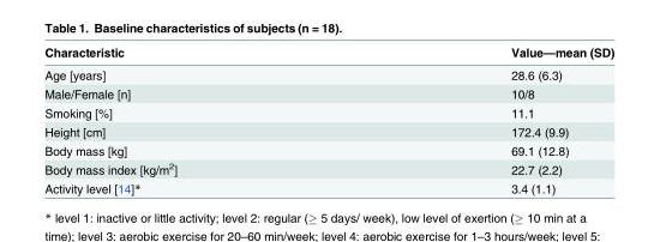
<table><thead><tr><td>Characteristic</td><td>Value—mean (SD)</td></tr></thead><tbody><tr><td>Age [years]</td><td>28.6 (6.3)</td></tr><tr><td>Male/Female [n]</td><td>10/8</td></tr><tr><td>Smoking [%]</td><td>11.1</td></tr><tr><td>Height [cm]</td><td>172.4 (9.9)</td></tr><tr><td>Body mass [kg]</td><td>69.1 (12.8)</td></tr><tr><td>Body mass index [kg/m<sup>2</sup>]</td><td>22.7 (2.2)</td></tr><tr><td>Activity level [14]*</td><td>3.4 (1.1)</td></tr></tbody></table>